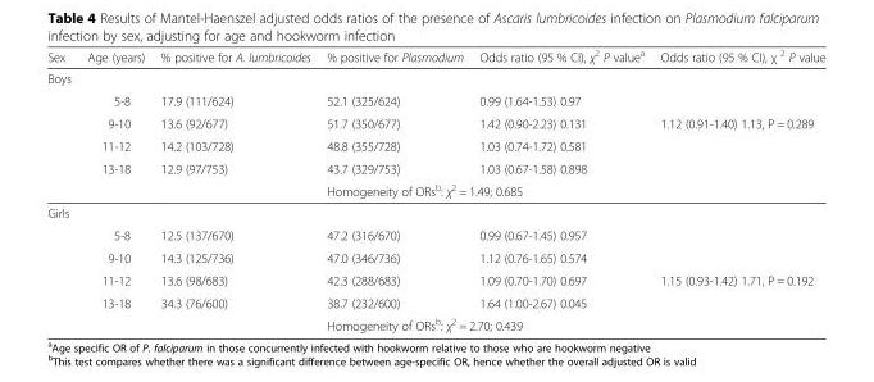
<table><thead><tr><td>Sex</td><td>Age (years)</td><td>% positive for A. lumbricoides</td><td>% positive for Plasmodium</td><td>Odds ratio (95 % CI), χ<sup>2</sup> P value<sup>a</sup></td><td>Odds ratio (95 % CI), χ <sup>2</sup> P value</td></tr></thead><tbody><tr><td colspan="6">Boys</td></tr><tr><td></td><td>5-8</td><td>17.9 (111/624)</td><td>52.1 (325/624)</td><td>0.99 (1.64-1.53) 0.97</td><td></td></tr><tr><td></td><td>9-10</td><td>13.6 (92/677)</td><td>51.7 (350/677)</td><td>1.42 (0.90-2.23) 0.131</td><td>1.12 (0.91-1.40) 1.13, P = 0.289</td></tr><tr><td></td><td>11-12</td><td>14.2 (103/728)</td><td>48.8 (355/728)</td><td>1.03 (0.74-1.72) 0.581</td><td></td></tr><tr><td></td><td>13-18</td><td>12.9 (97/753)</td><td>43.7 (329/753)</td><td>1.03 (0.67-1.58) 0.898</td><td></td></tr><tr><td></td><td></td><td></td><td colspan="3">Homogeneity of ORs<sup>b</sup>: χ<sup>2</sup> = 1.49; 0.685</td></tr><tr><td colspan="6">Girls</td></tr><tr><td></td><td>5-8</td><td>12.5 (137/670)</td><td>47.2 (316/670)</td><td>0.99 (0.67-1.45) 0.957</td><td></td></tr><tr><td></td><td>9-10</td><td>14.3 (125/736)</td><td>47.0 (346/736)</td><td>1.12 (0.76-1.65) 0.574</td><td></td></tr><tr><td></td><td>11-12</td><td>13.6 (98/683)</td><td>42.3 (288/683)</td><td>1.09 (0.70-1.70) 0.697</td><td>1.15 (0.93-1.42) 1.71, P = 0.192</td></tr><tr><td></td><td>13-18</td><td>34.3 (76/600)</td><td>38.7 (232/600)</td><td>1.64 (1.00-2.67) 0.045</td><td></td></tr><tr><td></td><td></td><td></td><td colspan="3">Homogeneity of ORs<sup>b</sup>: χ<sup>2</sup> = 2.70; 0.439</td></tr></tbody></table>